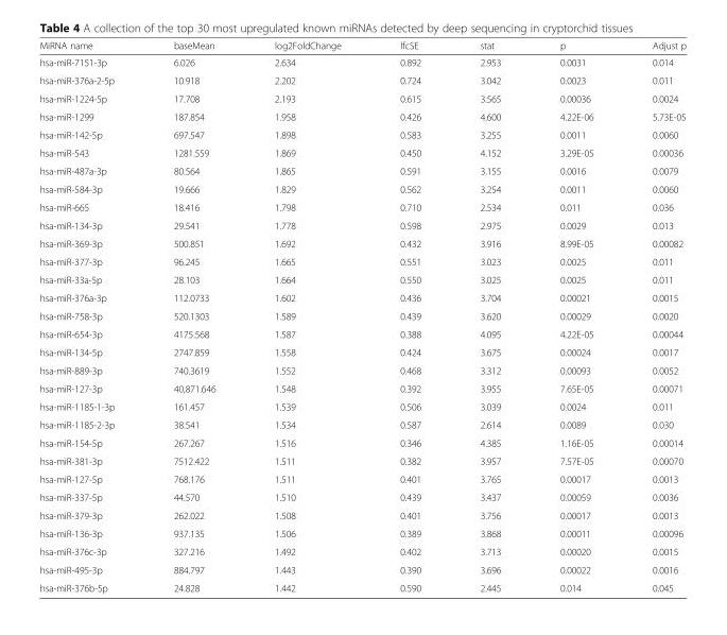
<table><thead><tr><td>MiRNA name</td><td>baseMean</td><td>log2FoldChange</td><td>lfcSE</td><td>stat</td><td>p</td><td>Adjust p</td></tr></thead><tbody><tr><td>hsa-miR-7151-3p</td><td>6.026</td><td>2.634</td><td>0.892</td><td>2.953</td><td>0.0031</td><td>0.014</td></tr><tr><td>hsa-miR-376a-2-5p</td><td>10.918</td><td>2.202</td><td>0.724</td><td>3.042</td><td>0.0023</td><td>0.011</td></tr><tr><td>hsa-miR-1224-5p</td><td>17.708</td><td>2.193</td><td>0.615</td><td>3.565</td><td>0.00036</td><td>0.0024</td></tr><tr><td>hsa-miR-1299</td><td>187.854</td><td>1.958</td><td>0.426</td><td>4.600</td><td>4.22E-06</td><td>5.73E-05</td></tr><tr><td>hsa-miR-142-5p</td><td>697.547</td><td>1.898</td><td>0.583</td><td>3.255</td><td>0.0011</td><td>0.0060</td></tr><tr><td>hsa-miR-543</td><td>1281.559</td><td>1.869</td><td>0.450</td><td>4.152</td><td>3.29E-05</td><td>0.00036</td></tr><tr><td>hsa-miR-487a-3p</td><td>80.564</td><td>1.865</td><td>0.591</td><td>3.155</td><td>0.0016</td><td>0.0079</td></tr><tr><td>hsa-miR-584-3p</td><td>19.666</td><td>1.829</td><td>0.562</td><td>3.254</td><td>0.0011</td><td>0.0060</td></tr><tr><td>hsa-miR-665</td><td>18.416</td><td>1.798</td><td>0.710</td><td>2.534</td><td>0.011</td><td>0.036</td></tr><tr><td>hsa-miR-134-3p</td><td>29.541</td><td>1.778</td><td>0.598</td><td>2.975</td><td>0.0029</td><td>0.013</td></tr><tr><td>hsa-miR-369-3p</td><td>500.851</td><td>1.692</td><td>0.432</td><td>3.916</td><td>8.99E-05</td><td>0.00082</td></tr><tr><td>hsa-miR-377-3p</td><td>96.245</td><td>1.665</td><td>0.551</td><td>3.023</td><td>0.0025</td><td>0.011</td></tr><tr><td>hsa-miR-33a-5p</td><td>28.103</td><td>1.664</td><td>0.550</td><td>3.025</td><td>0.0025</td><td>0.011</td></tr><tr><td>hsa-miR-376a-3p</td><td>112.0733</td><td>1.602</td><td>0.436</td><td>3.704</td><td>0.00021</td><td>0.0015</td></tr><tr><td>hsa-miR-758-3p</td><td>520.1303</td><td>1.589</td><td>0.439</td><td>3.620</td><td>0.00029</td><td>0.0020</td></tr><tr><td>hsa-miR-654-3p</td><td>4175.568</td><td>1.587</td><td>0.388</td><td>4.095</td><td>4.22E-05</td><td>0.00044</td></tr><tr><td>hsa-miR-134-5p</td><td>2747.859</td><td>1.558</td><td>0.424</td><td>3.675</td><td>0.00024</td><td>0.0017</td></tr><tr><td>hsa-miR-889-3p</td><td>740.3619</td><td>1.552</td><td>0.468</td><td>3.312</td><td>0.00093</td><td>0.0052</td></tr><tr><td>hsa-miR-127-3p</td><td>40,871.646</td><td>1.548</td><td>0.392</td><td>3.955</td><td>7.65E-05</td><td>0.00071</td></tr><tr><td>hsa-miR-1185-1-3p</td><td>161.457</td><td>1.539</td><td>0.506</td><td>3.039</td><td>0.0024</td><td>0.011</td></tr><tr><td>hsa-miR-1185-2-3p</td><td>38.541</td><td>1.534</td><td>0.587</td><td>2.614</td><td>0.0089</td><td>0.030</td></tr><tr><td>hsa-miR-154-5p</td><td>267.267</td><td>1.516</td><td>0.346</td><td>4.385</td><td>1.16E-05</td><td>0.00014</td></tr><tr><td>hsa-miR-381-3p</td><td>7512.422</td><td>1.511</td><td>0.382</td><td>3.957</td><td>7.57E-05</td><td>0.00070</td></tr><tr><td>hsa-miR-127-5p</td><td>768.176</td><td>1.511</td><td>0.401</td><td>3.765</td><td>0.00017</td><td>0.0013</td></tr><tr><td>hsa-miR-337-5p</td><td>44.570</td><td>1.510</td><td>0.439</td><td>3.437</td><td>0.00059</td><td>0.0036</td></tr><tr><td>hsa-miR-379-3p</td><td>262.022</td><td>1.508</td><td>0.401</td><td>3.756</td><td>0.00017</td><td>0.0013</td></tr><tr><td>hsa-miR-136-3p</td><td>937.135</td><td>1.506</td><td>0.389</td><td>3.868</td><td>0.00011</td><td>0.00096</td></tr><tr><td>hsa-miR-376c-3p</td><td>327.216</td><td>1.492</td><td>0.402</td><td>3.713</td><td>0.00020</td><td>0.0015</td></tr><tr><td>hsa-miR-495-3p</td><td>884.797</td><td>1.443</td><td>0.390</td><td>3.696</td><td>0.00022</td><td>0.0016</td></tr><tr><td>hsa-miR-376b-5p</td><td>24.828</td><td>1.442</td><td>0.590</td><td>2.445</td><td>0.014</td><td>0.045</td></tr></tbody></table>